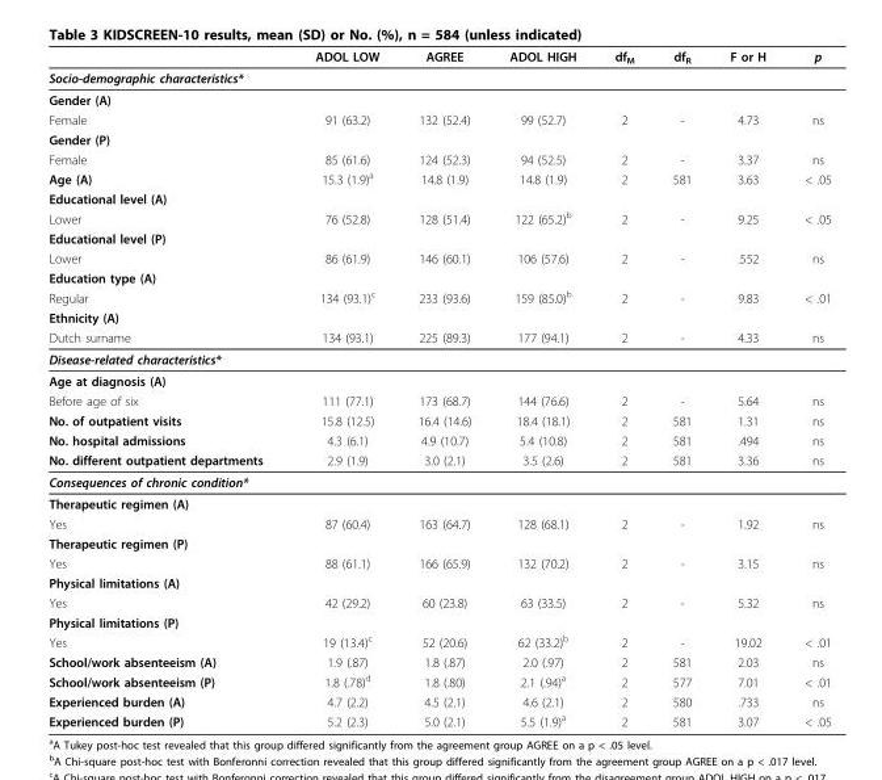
<table><thead><tr><td></td><td>ADOL LOW</td><td>AGREE</td><td>ADOL HIGH</td><td>df<sub>M</sub></td><td>df<sub>R</sub></td><td>F or H</td><td>p</td></tr></thead><tbody><tr><td colspan="8">Socio-demographic characteristics*</td></tr><tr><td colspan="8">Gender (A)</td></tr><tr><td>Female</td><td>91 (63.2)</td><td>132 (52.4)</td><td>99 (52.7)</td><td>2</td><td>-</td><td>4.73</td><td>ns</td></tr><tr><td colspan="8">Gender (P)</td></tr><tr><td>Female</td><td>85 (61.6)</td><td>124 (52.3)</td><td>94 (52.5)</td><td>2</td><td>-</td><td>3.37</td><td>ns</td></tr><tr><td>Age (A)</td><td>15.3 (1.9)<sup>a</sup></td><td>14.8 (1.9)</td><td>14.8 (1.9)</td><td>2</td><td>581</td><td>3.63</td><td>&lt; .05</td></tr><tr><td colspan="8">Educational level (A)</td></tr><tr><td>Lower</td><td>76 (52.8)</td><td>128 (51.4)</td><td>122 (65.2)<sup>b</sup></td><td>2</td><td>-</td><td>9.25</td><td>&lt; .05</td></tr><tr><td colspan="8">Educational level (P)</td></tr><tr><td>Lower</td><td>86 (61.9)</td><td>146 (60.1)</td><td>106 (57.6)</td><td>2</td><td>-</td><td>.552</td><td>ns</td></tr><tr><td colspan="8">Education type (A)</td></tr><tr><td>Regular</td><td>134 (93.1)<sup>c</sup></td><td>233 (93.6)</td><td>159 (85.0)<sup>b</sup></td><td>2</td><td>-</td><td>9.83</td><td>&lt; .01</td></tr><tr><td colspan="8">Ethnicity (A)</td></tr><tr><td>Dutch surname</td><td>134 (93.1)</td><td>225 (89.3)</td><td>177 (94.1)</td><td>2</td><td>-</td><td>4.33</td><td>ns</td></tr><tr><td colspan="8">Disease-related characteristics*</td></tr><tr><td colspan="8">Age at diagnosis (A)</td></tr><tr><td>Before age of six</td><td>111 (77.1)</td><td>173 (68.7)</td><td>144 (76.6)</td><td>2</td><td>-</td><td>5.64</td><td>ns</td></tr><tr><td>No. of outpatient visits</td><td>15.8 (12.5)</td><td>16.4 (14.6)</td><td>18.4 (18.1)</td><td>2</td><td>581</td><td>1.31</td><td>ns</td></tr><tr><td>No. hospital admissions</td><td>4.3 (6.1)</td><td>4.9 (10.7)</td><td>5.4 (10.8)</td><td>2</td><td>581</td><td>.494</td><td>ns</td></tr><tr><td>No. different outpatient departments</td><td>2.9 (1.9)</td><td>3.0 (2.1)</td><td>3.5 (2.6)</td><td>2</td><td>581</td><td>3.36</td><td>ns</td></tr><tr><td colspan="8">Consequences of chronic condition*</td></tr><tr><td colspan="8">Therapeutic regimen (A)</td></tr><tr><td>Yes</td><td>87 (60.4)</td><td>163 (64.7)</td><td>128 (68.1)</td><td>2</td><td>-</td><td>1.92</td><td>ns</td></tr><tr><td colspan="8">Therapeutic regimen (P)</td></tr><tr><td>Yes</td><td>88 (61.1)</td><td>166 (65.9)</td><td>132 (70.2)</td><td>2</td><td>-</td><td>3.15</td><td>ns</td></tr><tr><td colspan="8">Physical limitations (A)</td></tr><tr><td>Yes</td><td>42 (29.2)</td><td>60 (23.8)</td><td>63 (33.5)</td><td>2</td><td>-</td><td>5.32</td><td>ns</td></tr><tr><td colspan="8">Physical limitations (P)</td></tr><tr><td>Yes</td><td>19 (13.4)<sup>c</sup></td><td>52 (20.6)</td><td>62 (33.2)<sup>b</sup></td><td>2</td><td>-</td><td>19.02</td><td>&lt; .01</td></tr><tr><td>School/work absenteeism (A)</td><td>1.9 (.87)</td><td>1.8 (.87)</td><td>2.0 (.97)</td><td>2</td><td>581</td><td>2.03</td><td>ns</td></tr><tr><td>School/work absenteeism (P)</td><td>1.8 (.78)<sup>d</sup></td><td>1.8 (.80)</td><td>2.1 (.94)<sup>a</sup></td><td>2</td><td>577</td><td>7.01</td><td>&lt; .01</td></tr><tr><td>Experienced burden (A)</td><td>4.7 (2.2)</td><td>4.5 (2.1)</td><td>4.6 (2.1)</td><td>2</td><td>580</td><td>.733</td><td>ns</td></tr><tr><td>Experienced burden (P)</td><td>5.2 (2.3)</td><td>5.0 (2.1)</td><td>5.5 (1.9)<sup>a</sup></td><td>2</td><td>581</td><td>3.07</td><td>&lt; .05</td></tr></tbody></table>